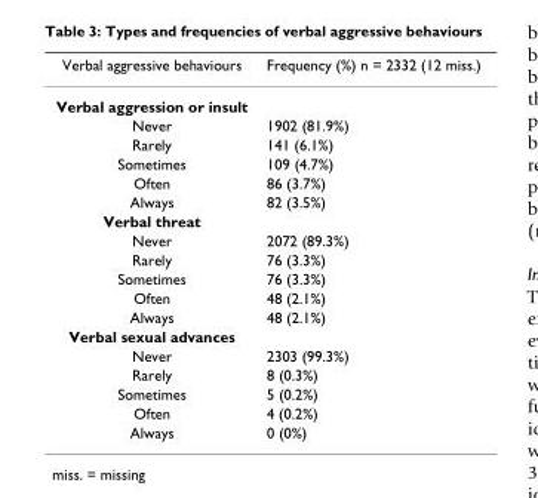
<table><thead><tr><td>Verbal aggressive behaviours</td><td>Frequency (%) n = 2332 (12 miss.)</td></tr></thead><tbody><tr><td colspan="2">Verbal aggression or insult</td></tr><tr><td>Never</td><td>1902 (81.9%)</td></tr><tr><td>Rarely</td><td>141 (6.1%)</td></tr><tr><td>Sometimes</td><td>109 (4.7%)</td></tr><tr><td>Often</td><td>86 (3.7%)</td></tr><tr><td>Always</td><td>82 (3.5%)</td></tr><tr><td colspan="2">Verbal threat</td></tr><tr><td>Never</td><td>2072 (89.3%)</td></tr><tr><td>Rarely</td><td>76 (3.3%)</td></tr><tr><td>Sometimes</td><td>76 (3.3%)</td></tr><tr><td>Often</td><td>48 (2.1%)</td></tr><tr><td>Always</td><td>48 (2.1%)</td></tr><tr><td colspan="2">Verbal sexual advances</td></tr><tr><td>Never</td><td>2303 (99.3%)</td></tr><tr><td>Rarely</td><td>8 (0.3%)</td></tr><tr><td>Sometimes</td><td>5 (0.2%)</td></tr><tr><td>Often</td><td>4 (0.2%)</td></tr><tr><td>Always</td><td>0 (0%)</td></tr></tbody></table>